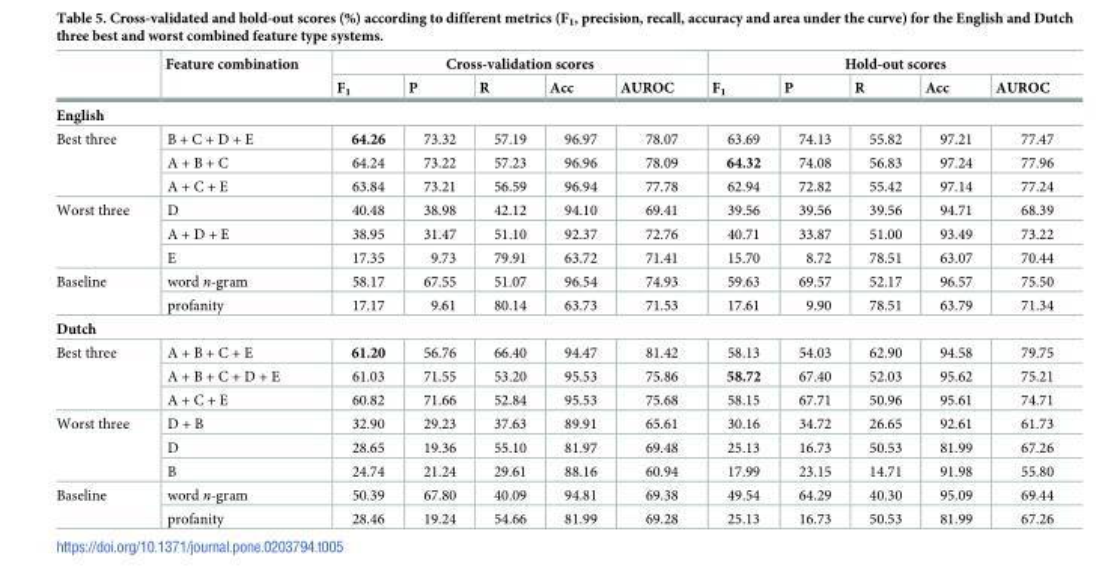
<table><thead><tr><td rowspan="2"></td><td rowspan="2">Feature combination</td><td colspan="5">Cross-validation scores</td><td colspan="5">Hold-out scores</td></tr><tr><td>F<sub>1</sub></td><td>P</td><td>R</td><td>Acc</td><td>AUROC</td><td>F<sub>1</sub></td><td>P</td><td>R</td><td>Acc</td><td>AUROC</td></tr></thead><tbody><tr><td colspan="12">English</td></tr><tr><td rowspan="3">Best three</td><td>B + C + D + E</td><td>64.26</td><td>73.32</td><td>57.19</td><td>96.97</td><td>78.07</td><td>63.69</td><td>74.13</td><td>55.82</td><td>97.21</td><td>77.47</td></tr><tr><td>A + B + C</td><td>64.24</td><td>73.22</td><td>57.23</td><td>96.96</td><td>78.09</td><td>64.32</td><td>74.08</td><td>56.83</td><td>97.24</td><td>77.96</td></tr><tr><td>A + C + E</td><td>63.84</td><td>73.21</td><td>56.59</td><td>96.94</td><td>77.78</td><td>62.94</td><td>72.82</td><td>55.42</td><td>97.14</td><td>77.24</td></tr><tr><td rowspan="3">Worst three</td><td>D</td><td>40.48</td><td>38.98</td><td>42.12</td><td>94.10</td><td>69.41</td><td>39.56</td><td>39.56</td><td>39.56</td><td>94.71</td><td>68.39</td></tr><tr><td>A + D + E</td><td>38.95</td><td>31.47</td><td>51.10</td><td>92.37</td><td>72.76</td><td>40.71</td><td>33.87</td><td>51.00</td><td>93.49</td><td>73.22</td></tr><tr><td>E</td><td>17.35</td><td>9.73</td><td>79.91</td><td>63.72</td><td>71.41</td><td>15.70</td><td>8.72</td><td>78.51</td><td>63.07</td><td>70.44</td></tr><tr><td rowspan="2">Baseline</td><td>word n-gram</td><td>58.17</td><td>67.55</td><td>51.07</td><td>96.54</td><td>74.93</td><td>59.63</td><td>69.57</td><td>52.17</td><td>96.57</td><td>75.50</td></tr><tr><td>profanity</td><td>17.17</td><td>9.61</td><td>80.14</td><td>63.73</td><td>71.53</td><td>17.61</td><td>9.90</td><td>78.51</td><td>63.79</td><td>71.34</td></tr><tr><td colspan="12">Dutch</td></tr><tr><td rowspan="3">Best three</td><td>A + B + C + E</td><td>61.20</td><td>56.76</td><td>66.40</td><td>94.47</td><td>81.42</td><td>58.13</td><td>54.03</td><td>62.90</td><td>94.58</td><td>79.75</td></tr><tr><td>A + B + C + D + E</td><td>61.03</td><td>71.55</td><td>53.20</td><td>95.53</td><td>75.86</td><td>58.72</td><td>67.40</td><td>52.03</td><td>95.62</td><td>75.21</td></tr><tr><td>A + C + E</td><td>60.82</td><td>71.66</td><td>52.84</td><td>95.53</td><td>75.68</td><td>58.15</td><td>67.71</td><td>50.96</td><td>95.61</td><td>74.71</td></tr><tr><td rowspan="3">Worst three</td><td>D + B</td><td>32.90</td><td>29.23</td><td>37.63</td><td>89.91</td><td>65.61</td><td>30.16</td><td>34.72</td><td>26.65</td><td>92.61</td><td>61.73</td></tr><tr><td>D</td><td>28.65</td><td>19.36</td><td>55.10</td><td>81.97</td><td>69.48</td><td>25.13</td><td>16.73</td><td>50.53</td><td>81.99</td><td>67.26</td></tr><tr><td>B</td><td>24.74</td><td>21.24</td><td>29.61</td><td>88.16</td><td>60.94</td><td>17.99</td><td>23.15</td><td>14.71</td><td>91.98</td><td>55.80</td></tr><tr><td rowspan="2">Baseline</td><td>word n-gram</td><td>50.39</td><td>67.80</td><td>40.09</td><td>94.81</td><td>69.38</td><td>49.54</td><td>64.29</td><td>40.30</td><td>95.09</td><td>69.44</td></tr><tr><td>profanity</td><td>28.46</td><td>19.24</td><td>54.66</td><td>81.99</td><td>69.28</td><td>25.13</td><td>16.73</td><td>50.53</td><td>81.99</td><td>67.26</td></tr></tbody></table>